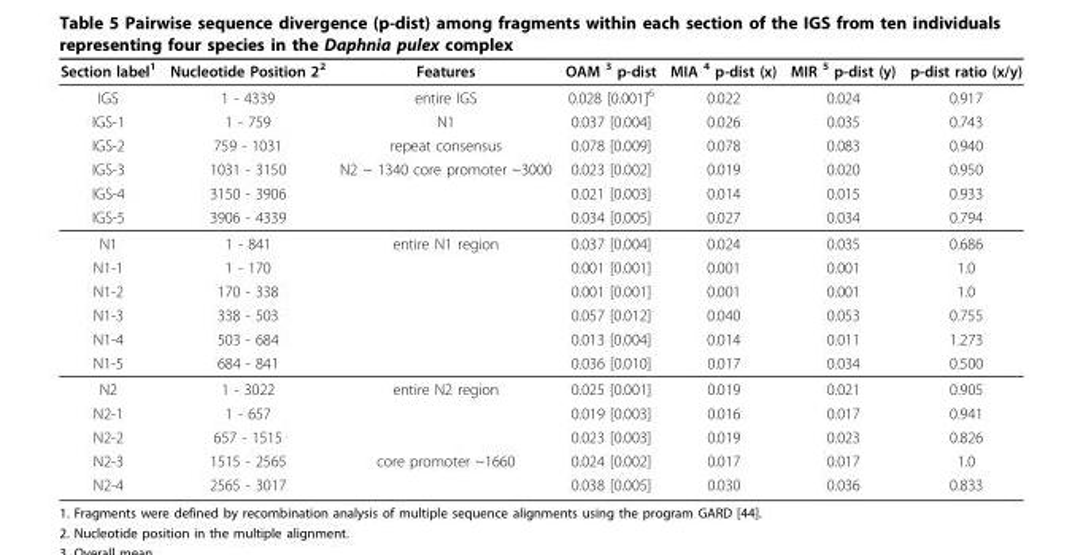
<table><thead><tr><td>Section label<sup>1</sup></td><td>Nucleotide Position 2<sup>2</sup></td><td>Features</td><td>OAM <sup>3</sup> p-dist</td><td>MIA <sup>4</sup> p-dist (x)</td><td>MIR <sup>5</sup> p-dist (y)</td><td>p-dist ratio (x/y)</td></tr></thead><tbody><tr><td>IGS</td><td>1 - 4339</td><td>entire IGS</td><td>0.028 [0.001]<sup>6</sup></td><td>0.022</td><td>0.024</td><td>0.917</td></tr><tr><td>IGS-1</td><td>1 - 759</td><td>N1</td><td>0.037 [0.004]</td><td>0.026</td><td>0.035</td><td>0.743</td></tr><tr><td>IGS-2</td><td>759 - 1031</td><td>repeat consensus</td><td>0.078 [0.009]</td><td>0.078</td><td>0.083</td><td>0.940</td></tr><tr><td>IGS-3</td><td>1031 - 3150</td><td>N2 ~ 1340 core promoter ~3000</td><td>0.023 [0.002]</td><td>0.019</td><td>0.020</td><td>0.950</td></tr><tr><td>IGS-4</td><td>3150 - 3906</td><td></td><td>0.021 [0.003]</td><td>0.014</td><td>0.015</td><td>0.933</td></tr><tr><td>IGS-5</td><td>3906 - 4339</td><td></td><td>0.034 [0.005]</td><td>0.027</td><td>0.034</td><td>0.794</td></tr><tr><td>N1</td><td>1 - 841</td><td>entire N1 region</td><td>0.037 [0.004]</td><td>0.024</td><td>0.035</td><td>0.686</td></tr><tr><td>N1-1</td><td>1 - 170</td><td></td><td>0.001 [0.001]</td><td>0.001</td><td>0.001</td><td>1.0</td></tr><tr><td>N1-2</td><td>170 - 338</td><td></td><td>0.001 [0.001]</td><td>0.001</td><td>0.001</td><td>1.0</td></tr><tr><td>N1-3</td><td>338 - 503</td><td></td><td>0.057 [0.012]</td><td>0.040</td><td>0.053</td><td>0.755</td></tr><tr><td>N1-4</td><td>503 - 684</td><td></td><td>0.013 [0.004]</td><td>0.014</td><td>0.011</td><td>1.273</td></tr><tr><td>N1-5</td><td>684 - 841</td><td></td><td>0.036 [0.010]</td><td>0.017</td><td>0.034</td><td>0.500</td></tr><tr><td>N2</td><td>1 - 3022</td><td>entire N2 region</td><td>0.025 [0.001]</td><td>0.019</td><td>0.021</td><td>0.905</td></tr><tr><td>N2-1</td><td>1 - 657</td><td></td><td>0.019 [0.003]</td><td>0.016</td><td>0.017</td><td>0.941</td></tr><tr><td>N2-2</td><td>657 - 1515</td><td></td><td>0.023 [0.003]</td><td>0.019</td><td>0.023</td><td>0.826</td></tr><tr><td>N2-3</td><td>1515 - 2565</td><td>core promoter ~1660</td><td>0.024 [0.002]</td><td>0.017</td><td>0.017</td><td>1.0</td></tr><tr><td>N2-4</td><td>2565 - 3017</td><td></td><td>0.038 [0.005]</td><td>0.030</td><td>0.036</td><td>0.833</td></tr></tbody></table>